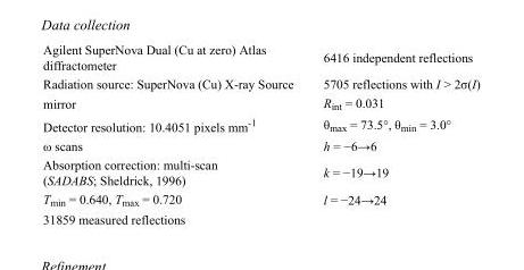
<table><tbody><tr><td>Agilent SuperNova Dual (Cu at zero) Atlas diffractometer</td><td>6416 independent reflections</td></tr><tr><td>Radiation source: SuperNova (Cu) X-ray Source</td><td>5705 reflections with I &gt; 2σ(I)</td></tr><tr><td>mirror</td><td>R<sub>int</sub> = 0.031</td></tr><tr><td>Detector resolution: 10.4051 pixels mm<sup>-1</sup></td><td>θ<sub>max</sub> = 73.5°, θ<sub>min</sub> = 3.0°</td></tr><tr><td>ω scans</td><td>h = −6→6</td></tr><tr><td>Absorption correction: multi-scan (SADABS; Sheldrick, 1996)</td><td>k = −19→19</td></tr><tr><td>T<sub>min</sub> = 0.640, T<sub>max</sub> = 0.720</td><td>l = −24→24</td></tr><tr><td>31859 measured reflections</td><td></td></tr></tbody></table>